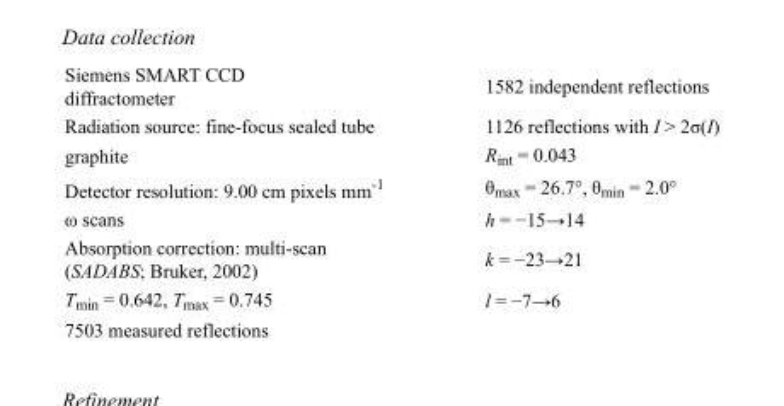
<table><tbody><tr><td>Siemens SMART CCD diffractometer</td><td>1582 independent reflections</td></tr><tr><td>Radiation source: fine-focus sealed tube</td><td>1126 reflections with I &gt; 2σ(I)</td></tr><tr><td>graphite</td><td>R<sub>int</sub> = 0.043</td></tr><tr><td>Detector resolution: 9.00 cm pixels mm<sup>-1</sup></td><td>θ<sub>max</sub> = 26.7°, θ<sub>min</sub> = 2.0°</td></tr><tr><td>ω scans</td><td>h = −15→14</td></tr><tr><td>Absorption correction: multi-scan (SADABS; Bruker, 2002)</td><td>k = −23→21</td></tr><tr><td>T<sub>min</sub> = 0.642, T<sub>max</sub> = 0.745</td><td>l = −7→6</td></tr><tr><td>7503 measured reflections</td><td></td></tr></tbody></table>